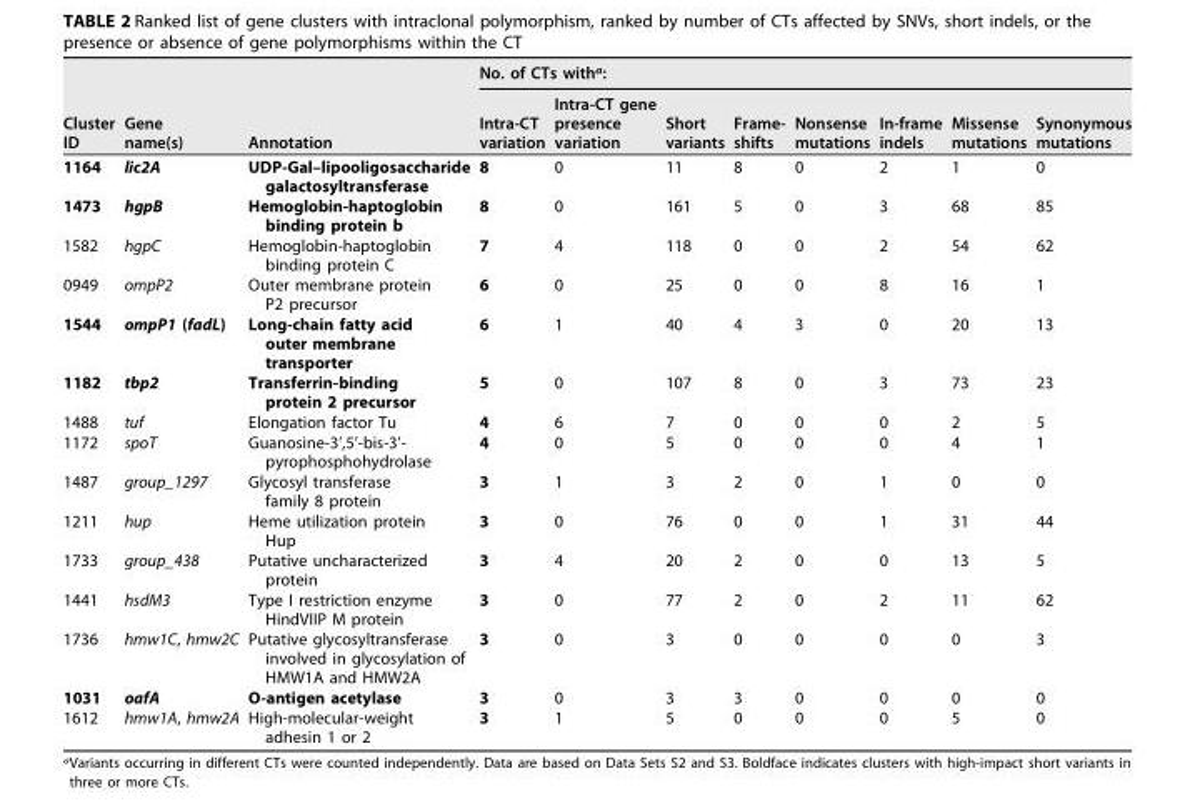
<table><thead><tr><td rowspan="2">Cluster ID</td><td rowspan="2">Gene name(s)</td><td rowspan="2">Annotation</td><td colspan="8">No. of CTs with<sup>a</sup>:</td></tr><tr><td>Intra-CT variation</td><td>Intra-CT gene presence variation</td><td>Short variants</td><td>Frame- shifts</td><td>Nonsense mutations</td><td>In-frame indels</td><td>Missense mutations</td><td>Synonymous mutations</td></tr></thead><tbody><tr><td>1164</td><td>lic2A</td><td>UDP-Gal–lipooligosaccharide galactosyltransferase</td><td>8</td><td>0</td><td>11</td><td>8</td><td>0</td><td>2</td><td>1</td><td>0</td></tr><tr><td>1473</td><td>hgpB</td><td>Hemoglobin-haptoglobin binding protein b</td><td>8</td><td>0</td><td>161</td><td>5</td><td>0</td><td>3</td><td>68</td><td>85</td></tr><tr><td>1582</td><td>hgpC</td><td>Hemoglobin-haptoglobin binding protein C</td><td>7</td><td>4</td><td>118</td><td>0</td><td>0</td><td>2</td><td>54</td><td>62</td></tr><tr><td>0949</td><td>ompP2</td><td>Outer membrane protein P2 precursor</td><td>6</td><td>0</td><td>25</td><td>0</td><td>0</td><td>8</td><td>16</td><td>1</td></tr><tr><td>1544</td><td>ompP1 (fadL)</td><td>Long-chain fatty acid outer membrane transporter</td><td>6</td><td>1</td><td>40</td><td>4</td><td>3</td><td>0</td><td>20</td><td>13</td></tr><tr><td>1182</td><td>tbp2</td><td>Transferrin-binding protein 2 precursor</td><td>5</td><td>0</td><td>107</td><td>8</td><td>0</td><td>3</td><td>73</td><td>23</td></tr><tr><td>1488</td><td>tuf</td><td>Elongation factor Tu</td><td>4</td><td>6</td><td>7</td><td>0</td><td>0</td><td>0</td><td>2</td><td>5</td></tr><tr><td>1172</td><td>spoT</td><td>Guanosine-3’,5’-bis-3’- pyrophosphohydrolase</td><td>4</td><td>0</td><td>5</td><td>0</td><td>0</td><td>0</td><td>4</td><td>1</td></tr><tr><td>1487</td><td>group_1297</td><td>Glycosyl transferase family 8 protein</td><td>3</td><td>1</td><td>3</td><td>2</td><td>0</td><td>1</td><td>0</td><td>0</td></tr><tr><td>1211</td><td>hup</td><td>Heme utilization protein Hup</td><td>3</td><td>0</td><td>76</td><td>0</td><td>0</td><td>1</td><td>31</td><td>44</td></tr><tr><td>1733</td><td>group_438</td><td>Putative uncharacterized protein</td><td>3</td><td>4</td><td>20</td><td>2</td><td>0</td><td>0</td><td>13</td><td>5</td></tr><tr><td>1441</td><td>hsdM3</td><td>Type I restriction enzyme HindVIIP M protein</td><td>3</td><td>0</td><td>77</td><td>2</td><td>0</td><td>2</td><td>11</td><td>62</td></tr><tr><td>1736</td><td>hmw1C, hmw2C</td><td>Putative glycosyltransferase involved in glycosylation of HMW1A and HMW2A</td><td>3</td><td>0</td><td>3</td><td>0</td><td>0</td><td>0</td><td>0</td><td>3</td></tr><tr><td>1031</td><td>oafA</td><td>O-antigen acetylase</td><td>3</td><td>0</td><td>3</td><td>3</td><td>0</td><td>0</td><td>0</td><td>0</td></tr><tr><td>1612</td><td>hmw1A, hmw2A</td><td>High-molecular-weight adhesin 1 or 2</td><td>3</td><td>1</td><td>5</td><td>0</td><td>0</td><td>0</td><td>5</td><td>0</td></tr></tbody></table>